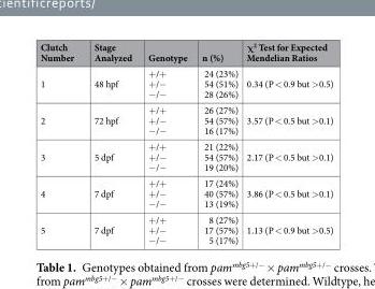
<table><thead><tr><td>Clutch Number</td><td>Stage Analyzed</td><td>Genotype</td><td>n (%)</td><td>χ<sup>2</sup> Test for Expected Mendelian Ratios</td></tr></thead><tbody><tr><td>1</td><td>48 hpf</td><td>+/+ +/− −/−</td><td>24 (23%) 54 (51%) 28 (26%)</td><td>0.34 (P &lt; 0.9 but &gt;0.5)</td></tr><tr><td>2</td><td>72 hpf</td><td>+/+ +/− −/−</td><td>26 (27%) 54 (57%) 16 (17%)</td><td>3.57 (P &lt; 0.5 but &gt;0.1)</td></tr><tr><td>3</td><td>5 dpf</td><td>+/+ +/− −/−</td><td>21 (22%) 54 (57%) 19 (20%)</td><td>2.17 (P &lt; 0.5 but &gt;0.1)</td></tr><tr><td>4</td><td>7 dpf</td><td>+/+ +/− −/−</td><td>17 (24%) 40 (57%) 13 (19%)</td><td>3.86 (P &lt; 0.5 but &gt;0.1)</td></tr><tr><td>5</td><td>7 dpf</td><td>+/+ +/− −/−</td><td>8 (27%) 17 (57%) 5 (17%)</td><td>1.13 (P &lt; 0.9 but &gt;0.5)</td></tr></tbody></table>